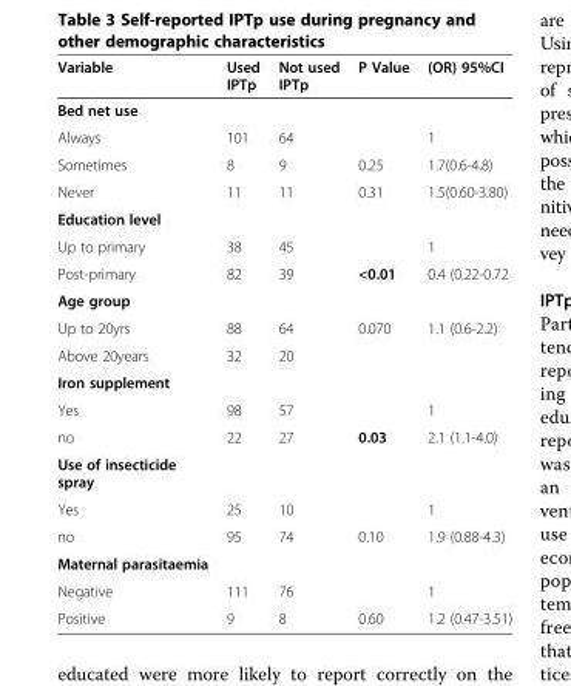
<table><thead><tr><td>Variable</td><td>Used IPTp</td><td>Not used IPTp</td><td>P Value</td><td>(OR) 95%CI</td></tr></thead><tbody><tr><td colspan="5">Bed net use</td></tr><tr><td>Always</td><td>101</td><td>64</td><td></td><td>1</td></tr><tr><td>Sometimes</td><td>8</td><td>9</td><td>0.25</td><td>1.7(0.6-4.8)</td></tr><tr><td>Never</td><td>11</td><td>11</td><td>0.31</td><td>1.5(0.60-3.80)</td></tr><tr><td colspan="5">Education level</td></tr><tr><td>Up to primary</td><td>38</td><td>45</td><td></td><td>1</td></tr><tr><td>Post-primary</td><td>82</td><td>39</td><td>&lt;0.01</td><td>0.4 (0.22-0.72</td></tr><tr><td colspan="5">Age group</td></tr><tr><td>Up to 20yrs</td><td>88</td><td>64</td><td>0.070</td><td>1.1 (0.6-2.2)</td></tr><tr><td>Above 20years</td><td>32</td><td>20</td><td></td><td></td></tr><tr><td colspan="5">Iron supplement</td></tr><tr><td>Yes</td><td>98</td><td>57</td><td></td><td>1</td></tr><tr><td>no</td><td>22</td><td>27</td><td>0.03</td><td>2.1 (1.1-4.0)</td></tr><tr><td colspan="5">Use of insecticide spray</td></tr><tr><td>Yes</td><td>25</td><td>10</td><td></td><td>1</td></tr><tr><td>no</td><td>95</td><td>74</td><td>0.10</td><td>1.9 (0.88-4.3)</td></tr><tr><td colspan="5">Maternal parasitaemia</td></tr><tr><td>Negative</td><td>111</td><td>76</td><td></td><td>1</td></tr><tr><td>Positive</td><td>9</td><td>8</td><td>0.60</td><td>1.2 (0.47-3.51)</td></tr></tbody></table>